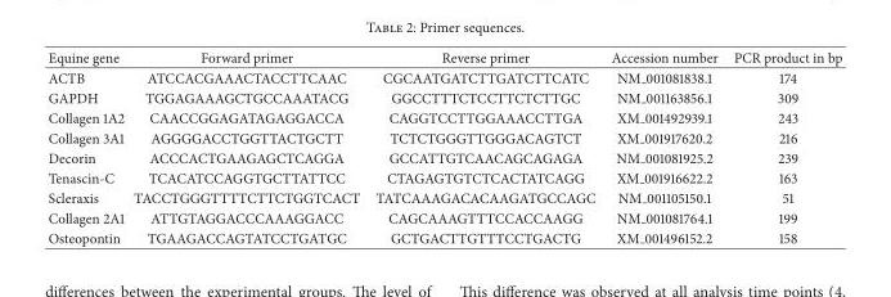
<table><thead><tr><td>Equine gene</td><td>Forward primer</td><td>Reverse primer</td><td>Accession number</td><td>PCR product in bp</td></tr></thead><tbody><tr><td>ACTB</td><td>ATCCACGAAACTACCTTCAAC</td><td>CGCAATGATCTTGATCTTCATC</td><td>NM 001081838.1</td><td>174</td></tr><tr><td>GAPDH</td><td>TGGAGAAAGCTGCCAAATACG</td><td>GGCCTTTCTCCTTCTCTTGC</td><td>NM 001163856.1</td><td>309</td></tr><tr><td>Collagen 1A2</td><td>CAACCGGAGATAGAGGACCA</td><td>CAGGTCCTTGGAAACCTTGA</td><td>XM 001492939.1</td><td>243</td></tr><tr><td>Collagen 3A1</td><td>AGGGGACCTGGTTACTGCTT</td><td>TCTCTGGGTTGGGACAGTCT</td><td>XM 001917620.2</td><td>216</td></tr><tr><td>Decorin</td><td>ACCCACTGAAGAGCTCAGGA</td><td>GCCATTGTCAACAGCAGAGA</td><td>NM 001081925.2</td><td>239</td></tr><tr><td>Tenascin-C</td><td>TCACATCCAGGTGCTTATTCC</td><td>CTAGAGTGTCTCACTATCAGG</td><td>XM 001916622.2</td><td>163</td></tr><tr><td>Scleraxis</td><td>TACCTGGGTTTTCTTCTGGTCACT</td><td>TATCAAAGACACAAGATGCCAGC</td><td>NM 001105150.1</td><td>51</td></tr><tr><td>Collagen 2A1</td><td>ATTGTAGGACCCAAAGGACC</td><td>CAGCAAAGTTTCCACCAAGG</td><td>NM 001081764.1</td><td>199</td></tr><tr><td>Osteopontin</td><td>TGAAGACCAGTATCCTGATGC</td><td>GCTGACTTGTTTCCTGACTG</td><td>XM 001496152.2</td><td>158</td></tr></tbody></table>